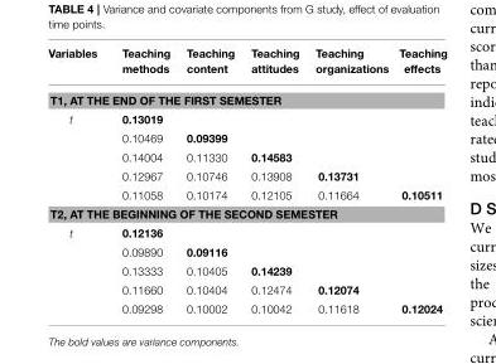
<table><thead><tr><td>Variables</td><td>Teaching methods</td><td>Teaching content</td><td>Teaching attitudes</td><td>Teaching organizations</td><td>Teaching effects</td></tr></thead><tbody><tr><td colspan="6">T1, AT THE END OF THE FIRST SEMESTER</td></tr><tr><td rowspan="5">t</td><td>0.13019</td><td></td><td></td><td></td><td></td></tr><tr><td>0.10469</td><td>0.09399</td><td></td><td></td><td></td></tr><tr><td>0.14004</td><td>0.11330</td><td>0.14583</td><td></td><td></td></tr><tr><td>0.12967</td><td>0.10746</td><td>0.13908</td><td>0.13731</td><td></td></tr><tr><td>0.11058</td><td>0.10174</td><td>0.12105</td><td>0.11664</td><td>0.10511</td></tr><tr><td colspan="6">T2, AT THE BEGINNING OF THE SECOND SEMESTER</td></tr><tr><td rowspan="5">t</td><td>0.12136</td><td></td><td></td><td></td><td></td></tr><tr><td>0.09890</td><td>0.09116</td><td></td><td></td><td></td></tr><tr><td>0.13333</td><td>0.10405</td><td>0.14239</td><td></td><td></td></tr><tr><td>0.11660</td><td>0.10404</td><td>0.12474</td><td>0.12074</td><td></td></tr><tr><td>0.09298</td><td>0.10002</td><td>0.10042</td><td>0.11618</td><td>0.12024</td></tr></tbody></table>